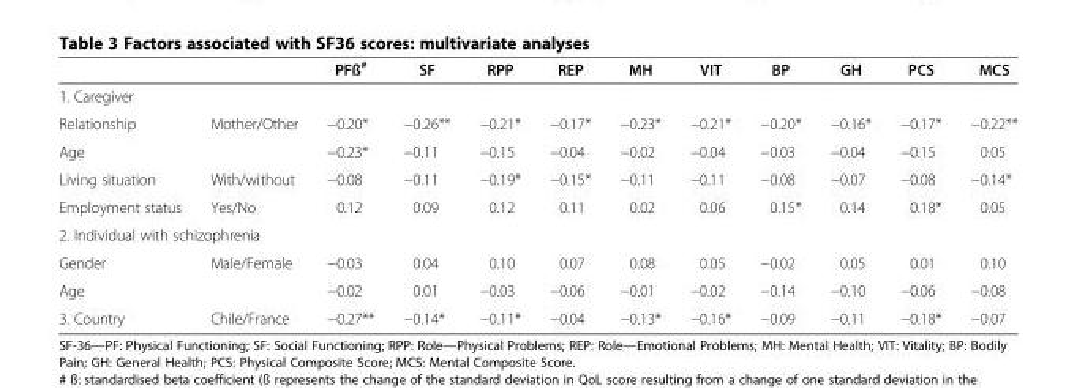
<table><thead><tr><td></td><td></td><td>PFß<sup>#</sup></td><td>SF</td><td>RPP</td><td>REP</td><td>MH</td><td>VIT</td><td>BP</td><td>GH</td><td>PCS</td><td>MCS</td></tr></thead><tbody><tr><td colspan="12">1. Caregiver</td></tr><tr><td>Relationship</td><td>Mother/Other</td><td>−0.20*</td><td>−0.26**</td><td>−0.21*</td><td>−0.17*</td><td>−0.23*</td><td>−0.21*</td><td>−0.20*</td><td>−0.16*</td><td>−0.17*</td><td>−0.22**</td></tr><tr><td colspan="2">Age</td><td>−0.23*</td><td>−0.11</td><td>−0.15</td><td>−0.04</td><td>−0.02</td><td>−0.04</td><td>−0.03</td><td>−0.04</td><td>−0.15</td><td>0.05</td></tr><tr><td>Living situation</td><td>With/without</td><td>−0.08</td><td>−0.11</td><td>−0.19*</td><td>−0.15*</td><td>−0.11</td><td>−0.11</td><td>−0.08</td><td>−0.07</td><td>−0.08</td><td>−0.14*</td></tr><tr><td>Employment status</td><td>Yes/No</td><td>0.12</td><td>0.09</td><td>0.12</td><td>0.11</td><td>0.02</td><td>0.06</td><td>0.15*</td><td>0.14</td><td>0.18*</td><td>0.05</td></tr><tr><td colspan="12">2. Individual with schizophrenia</td></tr><tr><td>Gender</td><td>Male/Female</td><td>−0.03</td><td>0.04</td><td>0.10</td><td>0.07</td><td>0.08</td><td>0.05</td><td>−0.02</td><td>0.05</td><td>0.01</td><td>0.10</td></tr><tr><td colspan="2">Age</td><td>−0.02</td><td>0.01</td><td>−0.03</td><td>−0.06</td><td>−0.01</td><td>−0.02</td><td>−0.14</td><td>−0.10</td><td>−0.06</td><td>−0.08</td></tr><tr><td>3. Country</td><td>Chile/France</td><td>−0.27**</td><td>−0.14*</td><td>−0.11*</td><td>−0.04</td><td>−0.13*</td><td>−0.16*</td><td>−0.09</td><td>−0.11</td><td>−0.18*</td><td>−0.07</td></tr></tbody></table>